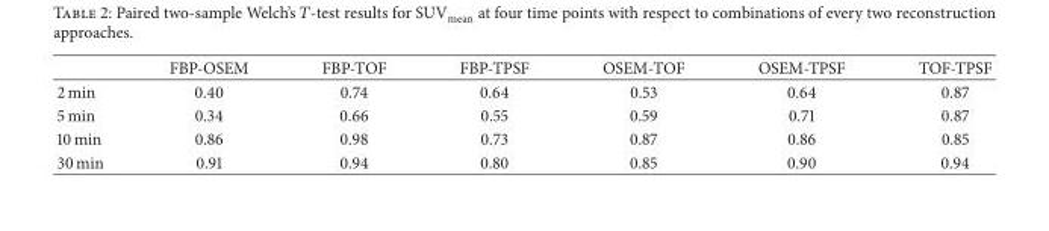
<table><thead><tr><td></td><td>FBP-OSEM</td><td>FBP-TOF</td><td>FBP-TPSF</td><td>OSEM-TOF</td><td>OSEM-TPSF</td><td>TOF-TPSF</td></tr></thead><tbody><tr><td>2 min</td><td>0.40</td><td>0.74</td><td>0.64</td><td>0.53</td><td>0.64</td><td>0.87</td></tr><tr><td>5 min</td><td>0.34</td><td>0.66</td><td>0.55</td><td>0.59</td><td>0.71</td><td>0.87</td></tr><tr><td>10 min</td><td>0.86</td><td>0.98</td><td>0.73</td><td>0.87</td><td>0.86</td><td>0.85</td></tr><tr><td>30 min</td><td>0.91</td><td>0.94</td><td>0.80</td><td>0.85</td><td>0.90</td><td>0.94</td></tr></tbody></table>